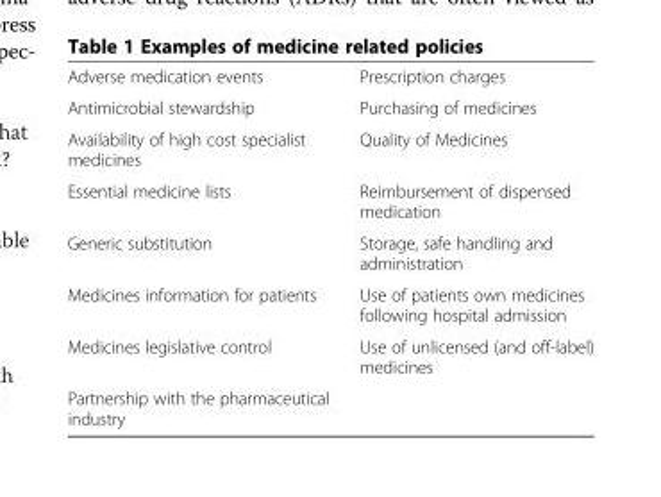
<table><tbody><tr><td>Adverse medication events</td><td>Prescription charges</td></tr><tr><td>Antimicrobial stewardship</td><td>Purchasing of medicines</td></tr><tr><td>Availability of high cost specialist medicines</td><td>Quality of Medicines</td></tr><tr><td>Essential medicine lists</td><td>Reimbursement of dispensed medication</td></tr><tr><td>Generic substitution</td><td>Storage, safe handling and administration</td></tr><tr><td>Medicines information for patients</td><td>Use of patients own medicines following hospital admission</td></tr><tr><td>Medicines legislative control</td><td>Use of unlicensed (and off-label) medicines</td></tr><tr><td>Partnership with the pharmaceutical industry</td><td></td></tr></tbody></table>